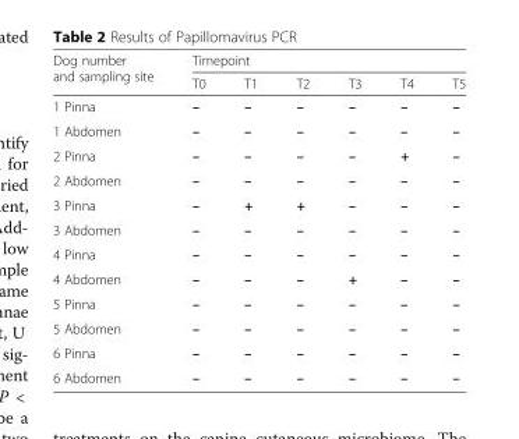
<table><thead><tr><td rowspan="2">Dog number and sampling site</td><td colspan="6">Timepoint</td></tr><tr><td>T0</td><td>T1</td><td>T2</td><td>T3</td><td>T4</td><td>T5</td></tr></thead><tbody><tr><td>1 Pinna</td><td>–</td><td>–</td><td>–</td><td>–</td><td>–</td><td>–</td></tr><tr><td>1 Abdomen</td><td>–</td><td>–</td><td>–</td><td>–</td><td>–</td><td>–</td></tr><tr><td>2 Pinna</td><td>–</td><td>–</td><td>–</td><td>–</td><td>+</td><td>–</td></tr><tr><td>2 Abdomen</td><td>–</td><td>–</td><td>–</td><td>–</td><td>–</td><td>–</td></tr><tr><td>3 Pinna</td><td>–</td><td>+</td><td>+</td><td>–</td><td>–</td><td>–</td></tr><tr><td>3 Abdomen</td><td>–</td><td>–</td><td>–</td><td>–</td><td>–</td><td>–</td></tr><tr><td>4 Pinna</td><td>–</td><td>–</td><td>–</td><td>–</td><td>–</td><td>–</td></tr><tr><td>4 Abdomen</td><td>–</td><td>–</td><td>–</td><td>+</td><td>–</td><td>–</td></tr><tr><td>5 Pinna</td><td>–</td><td>–</td><td>–</td><td>–</td><td>–</td><td>–</td></tr><tr><td>5 Abdomen</td><td>–</td><td>–</td><td>–</td><td>–</td><td>–</td><td>–</td></tr><tr><td>6 Pinna</td><td>–</td><td>–</td><td>–</td><td>–</td><td>–</td><td>–</td></tr><tr><td>6 Abdomen</td><td>–</td><td>–</td><td>–</td><td>–</td><td>–</td><td>–</td></tr></tbody></table>